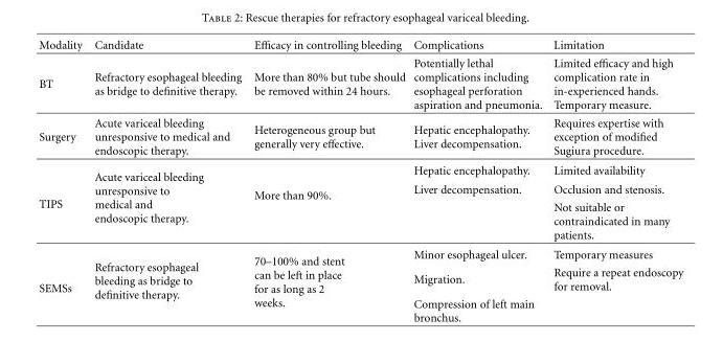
<table><thead><tr><td>Modality</td><td>Candidate</td><td>Efficacy in controlling bleeding</td><td>Complications</td><td>Limitation</td></tr></thead><tbody><tr><td>BT</td><td>Refractory esophageal bleeding as bridge to definitive therapy.</td><td>More than 80% but tube should be removed within 24 hours.</td><td>Potentially lethal complications including esophageal perforation aspiration and pneumonia.</td><td>Limited efficacy and high complication rate in in-experienced hands. Temporary measure.</td></tr><tr><td>Surgery</td><td>Acute variceal bleeding unresponsive to medical and endoscopic therapy.</td><td>Heterogeneous group but generally very effective.</td><td>Hepatic encephalopathy. Liver decompensation.</td><td>Requires expertise with exception of modified Sugiura procedure.</td></tr><tr><td rowspan="3">TIPS</td><td rowspan="3">Acute variceal bleeding unresponsive to medical and endoscopic therapy.</td><td rowspan="3">More than 90%.</td><td>Hepatic encephalopathy.</td><td>Limited availability</td></tr><tr><td rowspan="2">Liver decompensation.</td><td>Occlusion and stenosis.</td></tr><tr><td>Not suitable or contraindicated in many patients.</td></tr><tr><td rowspan="3">SEMSs</td><td rowspan="3">Refractory esophageal bleeding as bridge to definitive therapy.</td><td rowspan="3">70–100% and stent can be left in place for as long as 2 weeks.</td><td>Minor esophageal ulcer.</td><td>Temporary measures</td></tr><tr><td>Migration.</td><td>Require a repeat endoscopy for removal.</td></tr><tr><td>Compression of left main bronchus.</td><td></td></tr></tbody></table>